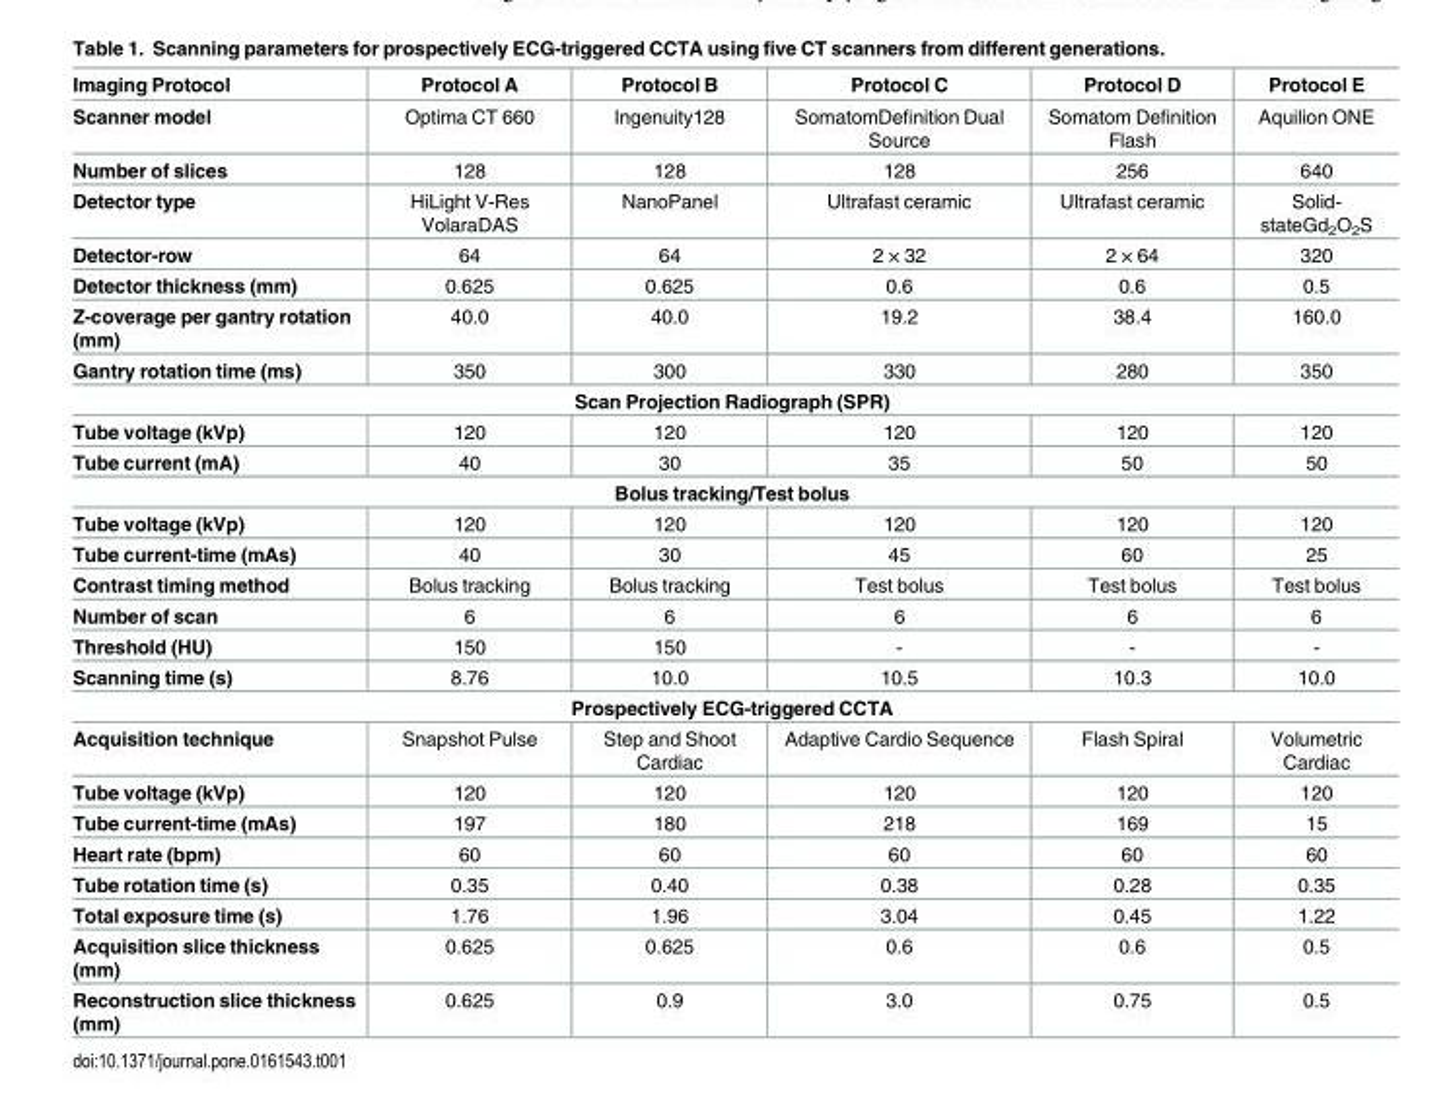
<table><thead><tr><td>Imaging Protocol</td><td>Protocol A</td><td>Protocol B</td><td>Protocol C</td><td>Protocol D</td><td>Protocol E</td></tr></thead><tbody><tr><td>Scanner model</td><td>Optima CT 660</td><td>Ingenuity128</td><td>SomatomDefinition Dual Source</td><td>Somatom Definition Flash</td><td>Aquilion ONE</td></tr><tr><td>Number of slices</td><td>128</td><td>128</td><td>128</td><td>256</td><td>640</td></tr><tr><td>Detector type</td><td>HiLight V-Res VolaraDAS</td><td>NanoPanel</td><td>Ultrafast ceramic</td><td>Ultrafast ceramic</td><td>Solid- stateGd<sub>2</sub>O<sub>2</sub>S</td></tr><tr><td>Detector-row</td><td>64</td><td>64</td><td>2 × 32</td><td>2 × 64</td><td>320</td></tr><tr><td>Detector thickness (mm)</td><td>0.625</td><td>0.625</td><td>0.6</td><td>0.6</td><td>0.5</td></tr><tr><td>Z-coverage per gantry rotation (mm)</td><td>40.0</td><td>40.0</td><td>19.2</td><td>38.4</td><td>160.0</td></tr><tr><td>Gantry rotation time (ms)</td><td>350</td><td>300</td><td>330</td><td>280</td><td>350</td></tr><tr><td colspan="6">Scan Projection Radiograph (SPR)</td></tr><tr><td>Tube voltage (kVp)</td><td>120</td><td>120</td><td>120</td><td>120</td><td>120</td></tr><tr><td>Tube current (mA)</td><td>40</td><td>30</td><td>35</td><td>50</td><td>50</td></tr><tr><td colspan="6">Bolus tracking/Test bolus</td></tr><tr><td>Tube voltage (kVp)</td><td>120</td><td>120</td><td>120</td><td>120</td><td>120</td></tr><tr><td>Tube current-time (mAs)</td><td>40</td><td>30</td><td>45</td><td>60</td><td>25</td></tr><tr><td>Contrast timing method</td><td>Bolus tracking</td><td>Bolus tracking</td><td>Test bolus</td><td>Test bolus</td><td>Test bolus</td></tr><tr><td>Number of scan</td><td>6</td><td>6</td><td>6</td><td>6</td><td>6</td></tr><tr><td>Threshold (HU)</td><td>150</td><td>150</td><td>-</td><td>-</td><td>-</td></tr><tr><td>Scanning time (s)</td><td>8.76</td><td>10.0</td><td>10.5</td><td>10.3</td><td>10.0</td></tr><tr><td colspan="6">Prospectively ECG-triggered CCTA</td></tr><tr><td>Acquisition technique</td><td>Snapshot Pulse</td><td>Step and Shoot Cardiac</td><td>Adaptive Cardio Sequence</td><td>Flash Spiral</td><td>Volumetric Cardiac</td></tr><tr><td>Tube voltage (kVp)</td><td>120</td><td>120</td><td>120</td><td>120</td><td>120</td></tr><tr><td>Tube current-time (mAs)</td><td>197</td><td>180</td><td>218</td><td>169</td><td>15</td></tr><tr><td>Heart rate (bpm)</td><td>60</td><td>60</td><td>60</td><td>60</td><td>60</td></tr><tr><td>Tube rotation time (s)</td><td>0.35</td><td>0.40</td><td>0.38</td><td>0.28</td><td>0.35</td></tr><tr><td>Total exposure time (s)</td><td>1.76</td><td>1.96</td><td>3.04</td><td>0.45</td><td>1.22</td></tr><tr><td>Acquisition slice thickness (mm)</td><td>0.625</td><td>0.625</td><td>0.6</td><td>0.6</td><td>0.5</td></tr><tr><td>Reconstruction slice thickness (mm)</td><td>0.625</td><td>0.9</td><td>3.0</td><td>0.75</td><td>0.5</td></tr></tbody></table>